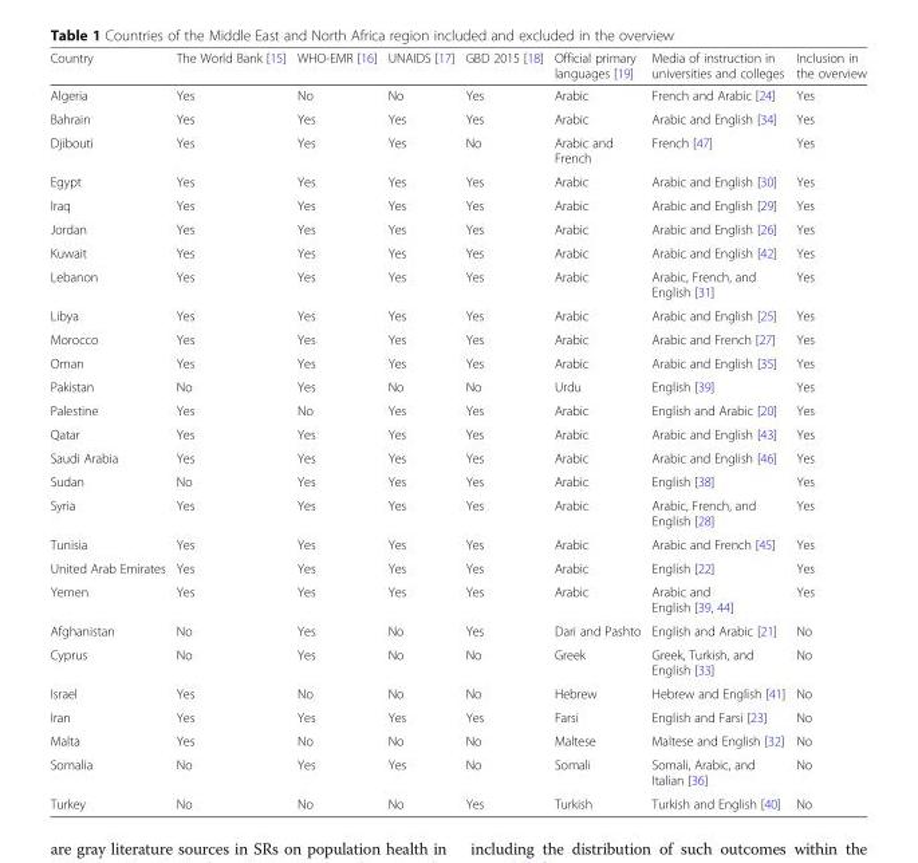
<table><thead><tr><td>Country</td><td>The World Bank [15]</td><td>WHO-EMR [16]</td><td>UNAIDS [17]</td><td>GBD 2015 [18]</td><td>Official primary languages [19]</td><td>Media of instruction in universities and colleges</td><td>Inclusion in the overview</td></tr></thead><tbody><tr><td>Algeria</td><td>Yes</td><td>No</td><td>No</td><td>Yes</td><td>Arabic</td><td>French and Arabic [24]</td><td>Yes</td></tr><tr><td>Bahrain</td><td>Yes</td><td>Yes</td><td>Yes</td><td>Yes</td><td>Arabic</td><td>Arabic and English [34]</td><td>Yes</td></tr><tr><td>Djibouti</td><td>Yes</td><td>Yes</td><td>Yes</td><td>No</td><td>Arabic and French</td><td>French [47]</td><td>Yes</td></tr><tr><td>Egypt</td><td>Yes</td><td>Yes</td><td>Yes</td><td>Yes</td><td>Arabic</td><td>Arabic and English [30]</td><td>Yes</td></tr><tr><td>Iraq</td><td>Yes</td><td>Yes</td><td>Yes</td><td>Yes</td><td>Arabic</td><td>Arabic and English [29]</td><td>Yes</td></tr><tr><td>Jordan</td><td>Yes</td><td>Yes</td><td>Yes</td><td>Yes</td><td>Arabic</td><td>Arabic and English [26]</td><td>Yes</td></tr><tr><td>Kuwait</td><td>Yes</td><td>Yes</td><td>Yes</td><td>Yes</td><td>Arabic</td><td>Arabic and English [42]</td><td>Yes</td></tr><tr><td>Lebanon</td><td>Yes</td><td>Yes</td><td>Yes</td><td>Yes</td><td>Arabic</td><td>Arabic, French, and English [31]</td><td>Yes</td></tr><tr><td>Libya</td><td>Yes</td><td>Yes</td><td>Yes</td><td>Yes</td><td>Arabic</td><td>Arabic and English [25]</td><td>Yes</td></tr><tr><td>Morocco</td><td>Yes</td><td>Yes</td><td>Yes</td><td>Yes</td><td>Arabic</td><td>Arabic and French [27]</td><td>Yes</td></tr><tr><td>Oman</td><td>Yes</td><td>Yes</td><td>Yes</td><td>Yes</td><td>Arabic</td><td>Arabic and English [35]</td><td>Yes</td></tr><tr><td>Pakistan</td><td>No</td><td>Yes</td><td>No</td><td>No</td><td>Urdu</td><td>English [39]</td><td>Yes</td></tr><tr><td>Palestine</td><td>Yes</td><td>No</td><td>Yes</td><td>Yes</td><td>Arabic</td><td>English and Arabic [20]</td><td>Yes</td></tr><tr><td>Qatar</td><td>Yes</td><td>Yes</td><td>Yes</td><td>Yes</td><td>Arabic</td><td>Arabic and English [43]</td><td>Yes</td></tr><tr><td>Saudi Arabia</td><td>Yes</td><td>Yes</td><td>Yes</td><td>Yes</td><td>Arabic</td><td>Arabic and English [46]</td><td>Yes</td></tr><tr><td>Sudan</td><td>No</td><td>Yes</td><td>Yes</td><td>Yes</td><td>Arabic</td><td>English [38]</td><td>Yes</td></tr><tr><td>Syria</td><td>Yes</td><td>Yes</td><td>Yes</td><td>Yes</td><td>Arabic</td><td>Arabic, French, and English [28]</td><td>Yes</td></tr><tr><td>Tunisia</td><td>Yes</td><td>Yes</td><td>Yes</td><td>Yes</td><td>Arabic</td><td>Arabic and French [45]</td><td>Yes</td></tr><tr><td>United Arab Emirates</td><td>Yes</td><td>Yes</td><td>Yes</td><td>Yes</td><td>Arabic</td><td>English [22]</td><td>Yes</td></tr><tr><td>Yemen</td><td>Yes</td><td>Yes</td><td>Yes</td><td>Yes</td><td>Arabic</td><td>Arabic and English [39, 44]</td><td>Yes</td></tr><tr><td>Afghanistan</td><td>No</td><td>Yes</td><td>No</td><td>Yes</td><td>Dari and Pashto</td><td>English and Arabic [21]</td><td>No</td></tr><tr><td>Cyprus</td><td>No</td><td>Yes</td><td>No</td><td>No</td><td>Greek</td><td>Greek, Turkish, and English [33]</td><td>No</td></tr><tr><td>Israel</td><td>Yes</td><td>No</td><td>No</td><td>No</td><td>Hebrew</td><td>Hebrew and English [41]</td><td>No</td></tr><tr><td>Iran</td><td>Yes</td><td>Yes</td><td>Yes</td><td>Yes</td><td>Farsi</td><td>English and Farsi [23]</td><td>No</td></tr><tr><td>Malta</td><td>Yes</td><td>No</td><td>No</td><td>No</td><td>Maltese</td><td>Maltese and English [32]</td><td>No</td></tr><tr><td>Somalia</td><td>No</td><td>Yes</td><td>Yes</td><td>No</td><td>Somali</td><td>Somali, Arabic, and Italian [36]</td><td>No</td></tr><tr><td>Turkey</td><td>No</td><td>No</td><td>No</td><td>Yes</td><td>Turkish</td><td>Turkish and English [40]</td><td>No</td></tr></tbody></table>